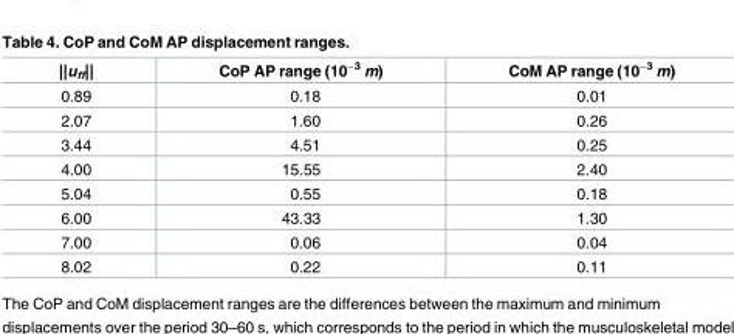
<table><thead><tr><td>||u<sub>ff</sub>||</td><td>CoP AP range (10<sup>−3</sup> m)</td><td>CoM AP range (10<sup>−3</sup> m)</td></tr></thead><tbody><tr><td>0.89</td><td>0.18</td><td>0.01</td></tr><tr><td>2.07</td><td>1.60</td><td>0.26</td></tr><tr><td>3.44</td><td>4.51</td><td>0.25</td></tr><tr><td>4.00</td><td>15.55</td><td>2.40</td></tr><tr><td>5.04</td><td>0.55</td><td>0.18</td></tr><tr><td>6.00</td><td>43.33</td><td>1.30</td></tr><tr><td>7.00</td><td>0.06</td><td>0.04</td></tr><tr><td>8.02</td><td>0.22</td><td>0.11</td></tr></tbody></table>